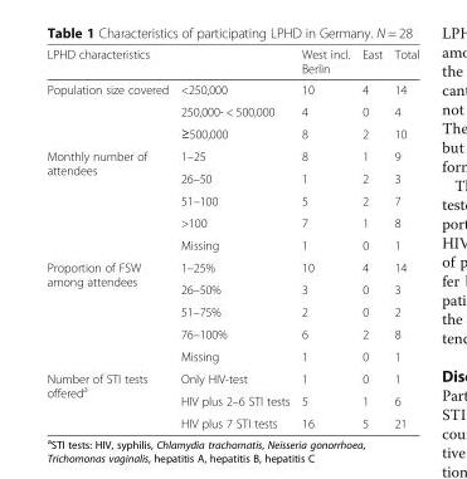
<table><thead><tr><td>LPHD characteristics</td><td></td><td>West incl. Berlin</td><td>East</td><td>Total</td></tr></thead><tbody><tr><td rowspan="3">Population size covered</td><td>&lt;250,000</td><td>10</td><td>4</td><td>14</td></tr><tr><td>250,000- &lt; 500,000</td><td>4</td><td>0</td><td>4</td></tr><tr><td>≥500,000</td><td>8</td><td>2</td><td>10</td></tr><tr><td rowspan="5">Monthly number of attendees</td><td>1–25</td><td>8</td><td>1</td><td>9</td></tr><tr><td>26–50</td><td>1</td><td>2</td><td>3</td></tr><tr><td>51–100</td><td>5</td><td>2</td><td>7</td></tr><tr><td>&gt;100</td><td>7</td><td>1</td><td>8</td></tr><tr><td>Missing</td><td>1</td><td>0</td><td>1</td></tr><tr><td rowspan="5">Proportion of FSW among attendees</td><td>1–25%</td><td>10</td><td>4</td><td>14</td></tr><tr><td>26–50%</td><td>3</td><td>0</td><td>3</td></tr><tr><td>51–75%</td><td>2</td><td>0</td><td>2</td></tr><tr><td>76–100%</td><td>6</td><td>2</td><td>8</td></tr><tr><td>Missing</td><td>1</td><td>0</td><td>1</td></tr><tr><td rowspan="3">Number of STI tests offered<sup>a</sup></td><td>Only HIV-test</td><td>1</td><td>0</td><td>1</td></tr><tr><td>HIV plus 2–6 STI tests</td><td>5</td><td>1</td><td>6</td></tr><tr><td>HIV plus 7 STI tests</td><td>16</td><td>5</td><td>21</td></tr></tbody></table>